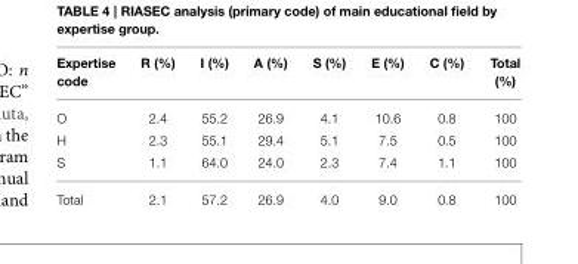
<table><thead><tr><td>Expertise code</td><td>R (%)</td><td>I (%)</td><td>A (%)</td><td>S (%)</td><td>E (%)</td><td>C (%)</td><td>Total (%)</td></tr></thead><tbody><tr><td>O</td><td>2.4</td><td>55.2</td><td>26.9</td><td>4.1</td><td>10.6</td><td>0.8</td><td>100</td></tr><tr><td>H</td><td>2.3</td><td>55.1</td><td>29.4</td><td>5.1</td><td>7.5</td><td>0.5</td><td>100</td></tr><tr><td>S</td><td>1.1</td><td>64.0</td><td>24.0</td><td>2.3</td><td>7.4</td><td>1.1</td><td>100</td></tr><tr><td>Total</td><td>2.1</td><td>57.2</td><td>26.9</td><td>4.0</td><td>9.0</td><td>0.8</td><td>100</td></tr></tbody></table>